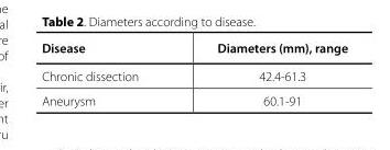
<table><thead><tr><td>Disease</td><td>Diameters (mm), range</td></tr></thead><tbody><tr><td>Chronic dissection</td><td>42.4-61.3</td></tr><tr><td>Aneurysm</td><td>60.1-91</td></tr></tbody></table>